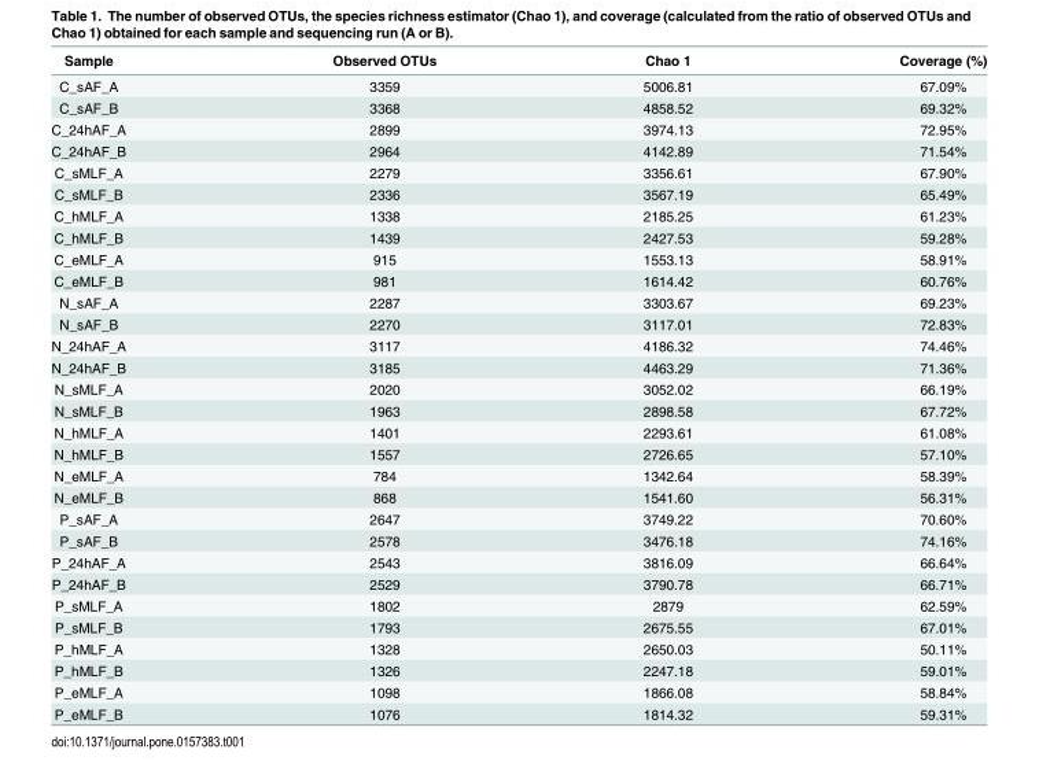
<table><thead><tr><td>Sample</td><td>Observed OTUs</td><td>Chao 1</td><td>Coverage (%)</td></tr></thead><tbody><tr><td>C_sAF_A</td><td>3359</td><td>5006.81</td><td>67.09%</td></tr><tr><td>C_sAF_B</td><td>3368</td><td>4858.52</td><td>69.32%</td></tr><tr><td>C_24hAF_A</td><td>2899</td><td>3974.13</td><td>72.95%</td></tr><tr><td>C_24hAF_B</td><td>2964</td><td>4142.89</td><td>71.54%</td></tr><tr><td>C_sMLF_A</td><td>2279</td><td>3356.61</td><td>67.90%</td></tr><tr><td>C_sMLF_B</td><td>2336</td><td>3567.19</td><td>65.49%</td></tr><tr><td>C_hMLF_A</td><td>1338</td><td>2185.25</td><td>61.23%</td></tr><tr><td>C_hMLF_B</td><td>1439</td><td>2427.53</td><td>59.28%</td></tr><tr><td>C_eMLF_A</td><td>915</td><td>1553.13</td><td>58.91%</td></tr><tr><td>C_eMLF_B</td><td>981</td><td>1614.42</td><td>60.76%</td></tr><tr><td>N_sAF_A</td><td>2287</td><td>3303.67</td><td>69.23%</td></tr><tr><td>N_sAF_B</td><td>2270</td><td>3117.01</td><td>72.83%</td></tr><tr><td>N_24hAF_A</td><td>3117</td><td>4186.32</td><td>74.46%</td></tr><tr><td>N_24hAF_B</td><td>3185</td><td>4463.29</td><td>71.36%</td></tr><tr><td>N_sMLF_A</td><td>2020</td><td>3052.02</td><td>66.19%</td></tr><tr><td>N_sMLF_B</td><td>1963</td><td>2898.58</td><td>67.72%</td></tr><tr><td>N_hMLF_A</td><td>1401</td><td>2293.61</td><td>61.08%</td></tr><tr><td>N_hMLF_B</td><td>1557</td><td>2726.65</td><td>57.10%</td></tr><tr><td>N_eMLF_A</td><td>784</td><td>1342.64</td><td>58.39%</td></tr><tr><td>N_eMLF_B</td><td>868</td><td>1541.60</td><td>56.31%</td></tr><tr><td>P_sAF_A</td><td>2647</td><td>3749.22</td><td>70.60%</td></tr><tr><td>P_sAF_B</td><td>2578</td><td>3476.18</td><td>74.16%</td></tr><tr><td>P_24hAF_A</td><td>2543</td><td>3816.09</td><td>66.64%</td></tr><tr><td>P_24hAF_B</td><td>2529</td><td>3790.78</td><td>66.71%</td></tr><tr><td>P_sMLF_A</td><td>1802</td><td>2879</td><td>62.59%</td></tr><tr><td>P_sMLF_B</td><td>1793</td><td>2675.55</td><td>67.01%</td></tr><tr><td>P_hMLF_A</td><td>1328</td><td>2650.03</td><td>50.11%</td></tr><tr><td>P_hMLF_B</td><td>1326</td><td>2247.18</td><td>59.01%</td></tr><tr><td>P_eMLF_A</td><td>1098</td><td>1866.08</td><td>58.84%</td></tr><tr><td>P_eMLF_B</td><td>1076</td><td>1814.32</td><td>59.31%</td></tr></tbody></table>